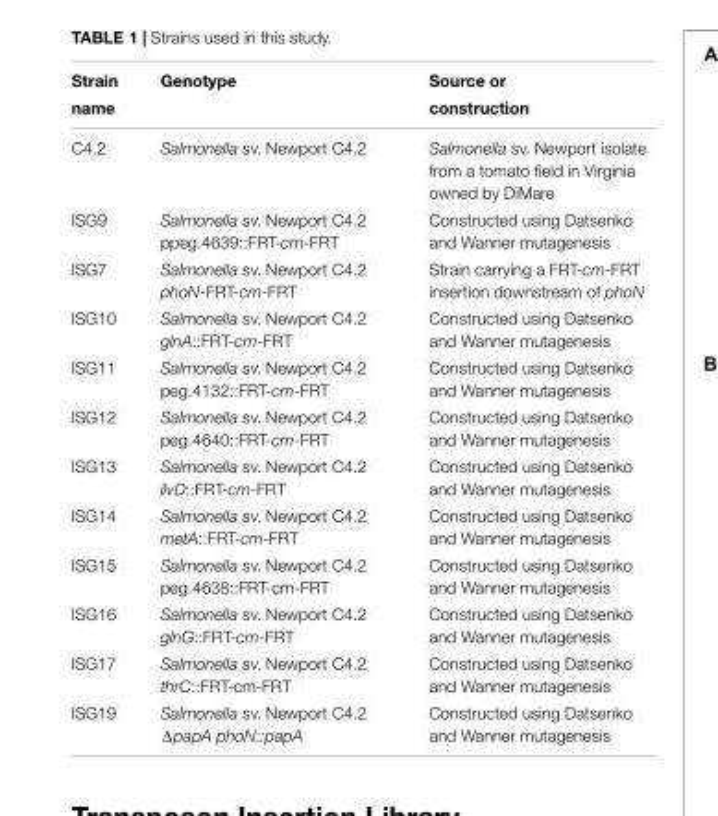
<table><thead><tr><td rowspan="2">Strain name</td><td rowspan="2">Genotype</td><td rowspan="2">Source or construction</td></tr><tr></tr></thead><tbody><tr><td>C4.2</td><td>Salmonella sv. Newport C4.2</td><td>Salmonella sv. Newport isolate from a tomato field in Virginia owned by DiMare</td></tr><tr><td>ISG9</td><td>Salmonella sv. Newport C4.2 ppeg.4639::FRT-cm-FRT</td><td>Constructed using Datsenko and Wanner mutagenesis</td></tr><tr><td>ISG7</td><td>Salmonella sv. Newport C4.2 phoN-FRT-cm-FRT</td><td>Strain carrying a FRT-cm-FRT insertion downstream of phoN</td></tr><tr><td>ISG10</td><td>Salmonella sv. Newport C4.2 glnA::FRT-cm-FRT</td><td>Constructed using Datsenko and Wanner mutagenesis</td></tr><tr><td>ISG11</td><td>Salmonella sv. Newport C4.2 peg.4132::FRT-cm-FRT</td><td>Constructed using Datsenko and Wanner mutagenesis</td></tr><tr><td>ISG12</td><td>Salmonella sv. Newport C4.2 peg.4640::FRT-cm-FRT</td><td>Constructed using Datsenko and Wanner mutagenesis</td></tr><tr><td>ISG13</td><td>Salmonella sv. Newport C4.2 ilvD::FRT-cm-FRT</td><td>Constructed using Datsenko and Wanner mutagenesis</td></tr><tr><td>ISG14</td><td>Salmonella sv. Newport C4.2 metA::FRT-cm-FRT</td><td>Constructed using Datsenko and Wanner mutagenesis</td></tr><tr><td>ISG15</td><td>Salmonella sv. Newport C4.2 peg.4638::FRT-cm-FRT</td><td>Constructed using Datsenko and Wanner mutagenesis</td></tr><tr><td>ISG16</td><td>Salmonella sv. Newport C4.2 glnG::FRT-cm-FRT</td><td>Constructed using Datsenko and Wanner mutagenesis</td></tr><tr><td>ISG17</td><td>Salmonella sv. Newport C4.2 thrC::FRT-cm-FRT</td><td>Constructed using Datsenko and Wanner mutagenesis</td></tr><tr><td>ISG19</td><td>Salmonella sv. Newport C4.2 ΔpapA phoN::papA</td><td>Constructed using Datsenko and Wanner mutagenesis</td></tr></tbody></table>